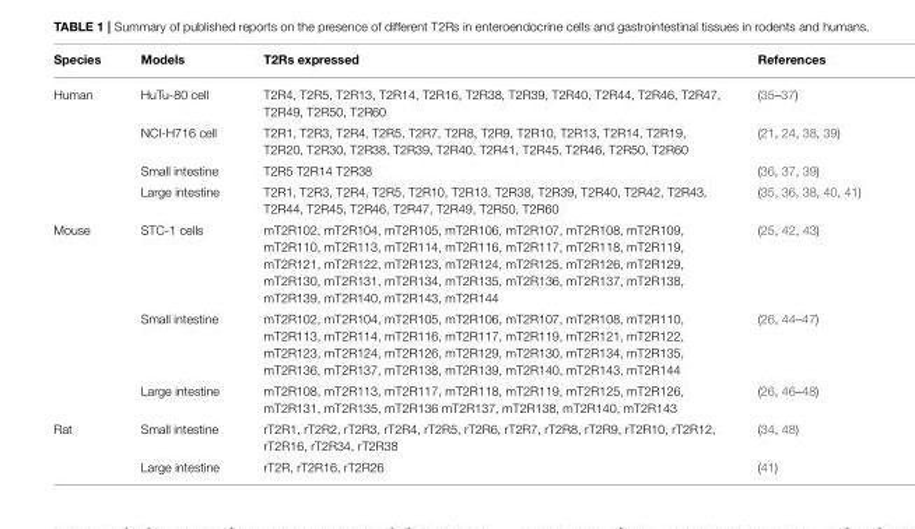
<table><thead><tr><td>Species</td><td>Models</td><td>T2Rs expressed</td><td>References</td></tr></thead><tbody><tr><td rowspan="4">Human</td><td>HuTu-80 cell</td><td>T2R4, T2R5, T2R13, T2R14, T2R16, T2R38, T2R39, T2R40, T2R44, T2R46, T2R47, T2R49, T2R50, T2R60</td><td>(35–37)</td></tr><tr><td>NCI-H716 cell</td><td>T2R1, T2R3, T2R4, T2R5, T2R7, T2R8, T2R9, T2R10, T2R13, T2R14, T2R19, T2R20, T2R30, T2R38, T2R39, T2R40, T2R41, T2R45, T2R46, T2R50, T2R60</td><td>(21, 24, 38, 39)</td></tr><tr><td>Small intestine</td><td>T2R5 T2R14 T2R38</td><td>(36, 37, 39)</td></tr><tr><td>Large intestine</td><td>T2R1, T2R3, T2R4, T2R5, T2R10, T2R13, T2R38, T2R39, T2R40, T2R42, T2R43, T2R44, T2R45, T2R46, T2R47, T2R49, T2R50, T2R60</td><td>(35, 36, 38, 40, 41)</td></tr><tr><td rowspan="3">Mouse</td><td>STC-1 cells</td><td>mT2R102, mT2R104, mT2R105, mT2R106, mT2R107, mT2R108, mT2R109, mT2R110, mT2R113, mT2R114, mT2R116, mT2R117, mT2R118, mT2R119, mT2R121, mT2R122, mT2R123, mT2R124, mT2R125, mT2R126, mT2R129, mT2R130, mT2R131, mT2R134, mT2R135, mT2R136, mT2R137, mT2R138, mT2R139, mT2R140, mT2R143, mT2R144</td><td>(25, 42, 43)</td></tr><tr><td>Small intestine</td><td>mT2R102, mT2R104, mT2R105, mT2R106, mT2R107, mT2R108, mT2R110, mT2R113, mT2R114, mT2R116, mT2R117, mT2R119, mT2R121, mT2R122, mT2R123, mT2R124, mT2R126, mT2R129, mT2R130, mT2R134, mT2R135, mT2R136, mT2R137, mT2R138, mT2R139, mT2R140, mT2R143, mT2R144</td><td>(26, 44–47)</td></tr><tr><td>Large intestine</td><td>mT2R108, mT2R113, mT2R117, mT2R118, mT2R119, mT2R125, mT2R126, mT2R131, mT2R135, mT2R136 mT2R137, mT2R138, mT2R140, mT2R143</td><td>(26, 46–48)</td></tr><tr><td rowspan="2">Rat</td><td>Small intestine</td><td>rT2R1, rT2R2, rT2R3, rT2R4, rT2R5, rT2R6, rT2R7, rT2R8, rT2R9, rT2R10, rT2R12, rT2R16, rT2R34, rT2R38</td><td>(34, 48)</td></tr><tr><td>Large intestine</td><td>rT2R, rT2R16, rT2R26</td><td>(41)</td></tr></tbody></table>